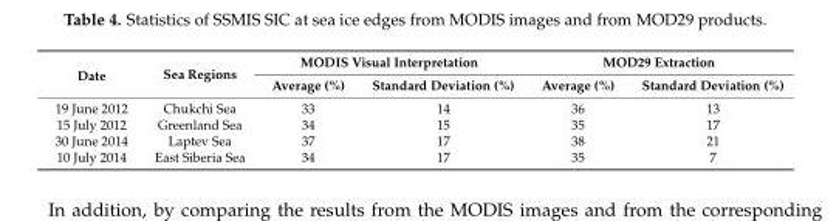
<table><thead><tr><td rowspan="2">Date</td><td rowspan="2">Sea Regions</td><td colspan="2">MODIS Visual Interpretation</td><td colspan="2">MOD29 Extraction</td></tr><tr><td>Average (%)</td><td>Standard Deviation (%)</td><td>Average (%)</td><td>Standard Deviation (%)</td></tr></thead><tbody><tr><td>19 June 2012</td><td>Chukchi Sea</td><td>33</td><td>14</td><td>36</td><td>13</td></tr><tr><td>15 July 2012</td><td>Greenland Sea</td><td>34</td><td>15</td><td>35</td><td>17</td></tr><tr><td>30 June 2014</td><td>Laptev Sea</td><td>37</td><td>17</td><td>38</td><td>21</td></tr><tr><td>10 July 2014</td><td>East Siberia Sea</td><td>34</td><td>17</td><td>35</td><td>7</td></tr></tbody></table>